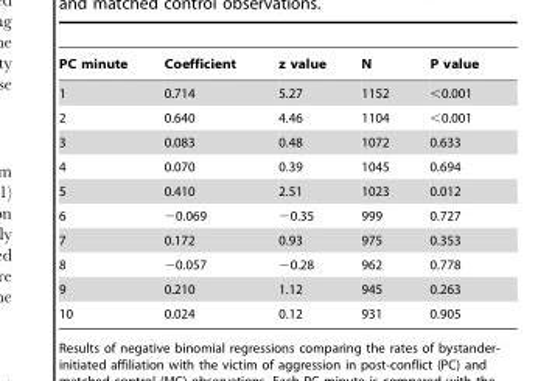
<table><thead><tr><td>PC minute</td><td>Coefficient</td><td>z value</td><td>N</td><td>P value</td></tr></thead><tbody><tr><td>1</td><td>0.714</td><td>5.27</td><td>1152</td><td>&lt;0.001</td></tr><tr><td>2</td><td>0.640</td><td>4.46</td><td>1104</td><td>&lt;0.001</td></tr><tr><td>3</td><td>0.083</td><td>0.48</td><td>1072</td><td>0.633</td></tr><tr><td>4</td><td>0.070</td><td>0.39</td><td>1045</td><td>0.694</td></tr><tr><td>5</td><td>0.410</td><td>2.51</td><td>1023</td><td>0.012</td></tr><tr><td>6</td><td>−0.069</td><td>−0.35</td><td>999</td><td>0.727</td></tr><tr><td>7</td><td>0.172</td><td>0.93</td><td>975</td><td>0.353</td></tr><tr><td>8</td><td>−0.057</td><td>−0.28</td><td>962</td><td>0.778</td></tr><tr><td>9</td><td>0.210</td><td>1.12</td><td>945</td><td>0.263</td></tr><tr><td>10</td><td>0.024</td><td>0.12</td><td>931</td><td>0.905</td></tr></tbody></table>